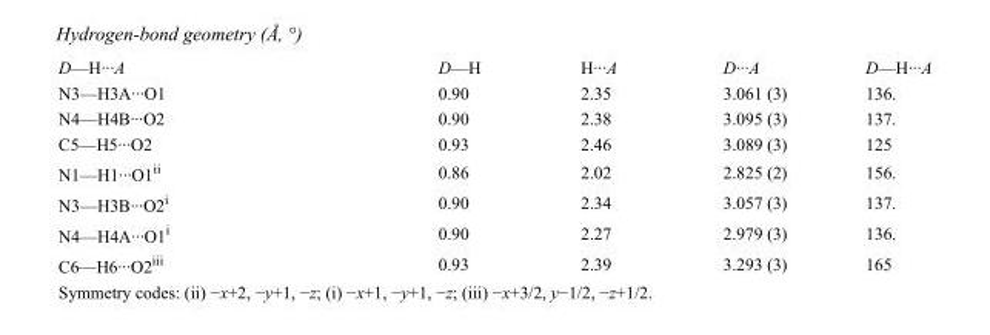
<table><tbody><tr><td>D—H···A</td><td>D—H</td><td>H···A</td><td>D···A</td><td>D—H···A</td></tr><tr><td>N3—H3A···O1</td><td>0.90</td><td>2.35</td><td>3.061 (3)</td><td>136.</td></tr><tr><td>N4—H4B···O2</td><td>0.90</td><td>2.38</td><td>3.095 (3)</td><td>137.</td></tr><tr><td>C5—H5···O2</td><td>0.93</td><td>2.46</td><td>3.089 (3)</td><td>125</td></tr><tr><td>N1—H1···O1<sup>ii</sup></td><td>0.86</td><td>2.02</td><td>2.825 (2)</td><td>156.</td></tr><tr><td>N3—H3B···O2<sup>i</sup></td><td>0.90</td><td>2.34</td><td>3.057 (3)</td><td>137.</td></tr><tr><td>N4—H4A···O1<sup>i</sup></td><td>0.90</td><td>2.27</td><td>2.979 (3)</td><td>136.</td></tr><tr><td>C6—H6···O2<sup>iii</sup></td><td>0.93</td><td>2.39</td><td>3.293 (3)</td><td>165</td></tr></tbody></table>